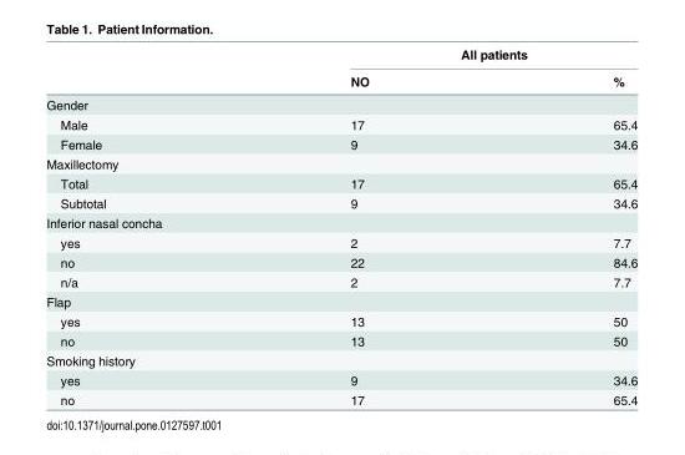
<table><thead><tr><td rowspan="2"></td><td colspan="2">All patients</td></tr><tr><td>NO</td><td>%</td></tr></thead><tbody><tr><td colspan="3">Gender</td></tr><tr><td>Male</td><td>17</td><td>65.4</td></tr><tr><td>Female</td><td>9</td><td>34.6</td></tr><tr><td colspan="3">Maxillectomy</td></tr><tr><td>Total</td><td>17</td><td>65.4</td></tr><tr><td>Subtotal</td><td>9</td><td>34.6</td></tr><tr><td colspan="3">Inferior nasal concha</td></tr><tr><td>yes</td><td>2</td><td>7.7</td></tr><tr><td>no</td><td>22</td><td>84.6</td></tr><tr><td>n/a</td><td>2</td><td>7.7</td></tr><tr><td colspan="3">Flap</td></tr><tr><td>yes</td><td>13</td><td>50</td></tr><tr><td>no</td><td>13</td><td>50</td></tr><tr><td colspan="3">Smoking history</td></tr><tr><td>yes</td><td>9</td><td>34.6</td></tr><tr><td>no</td><td>17</td><td>65.4</td></tr></tbody></table>